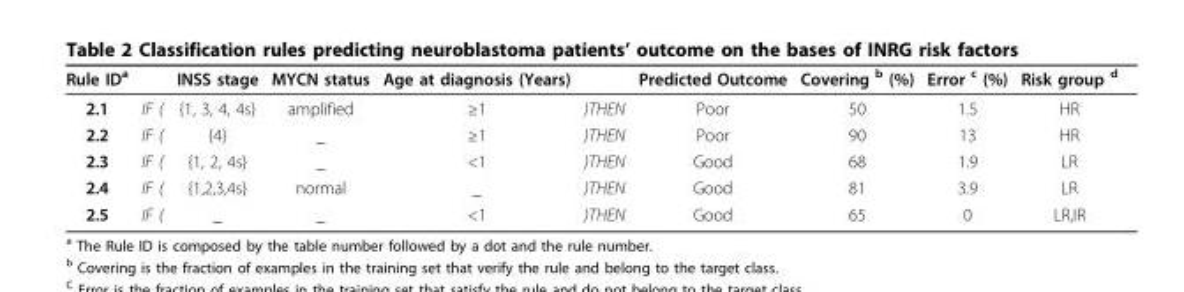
<table><tbody><tr><td>Rule ID<sup>a</sup></td><td></td><td>INSS stage</td><td>MYCN status</td><td>Age at diagnosis (Years)</td><td></td><td>Predicted Outcome</td><td>Covering <sup>b</sup> (%)</td><td>Error <sup>c</sup> (%)</td><td>Risk group <sup>d</sup></td></tr><tr><td>2.1</td><td>IF (</td><td>{1, 3, 4, 4s}</td><td>amplified</td><td>≥1</td><td>)THEN</td><td>Poor</td><td>50</td><td>1.5</td><td>HR</td></tr><tr><td>2.2</td><td>IF (</td><td>{4}</td><td>_</td><td>≥1</td><td>)THEN</td><td>Poor</td><td>90</td><td>13</td><td>HR</td></tr><tr><td>2.3</td><td>IF (</td><td>{1, 2, 4s}</td><td>_</td><td>&lt;1</td><td>)THEN</td><td>Good</td><td>68</td><td>1.9</td><td>LR</td></tr><tr><td>2.4</td><td>IF (</td><td>{1,2,3,4s}</td><td>normal</td><td>_</td><td>)THEN</td><td>Good</td><td>81</td><td>3.9</td><td>LR</td></tr><tr><td>2.5</td><td>IF (</td><td>_</td><td>_</td><td>&lt;1</td><td>)THEN</td><td>Good</td><td>65</td><td>0</td><td>LR,IR</td></tr></tbody></table>